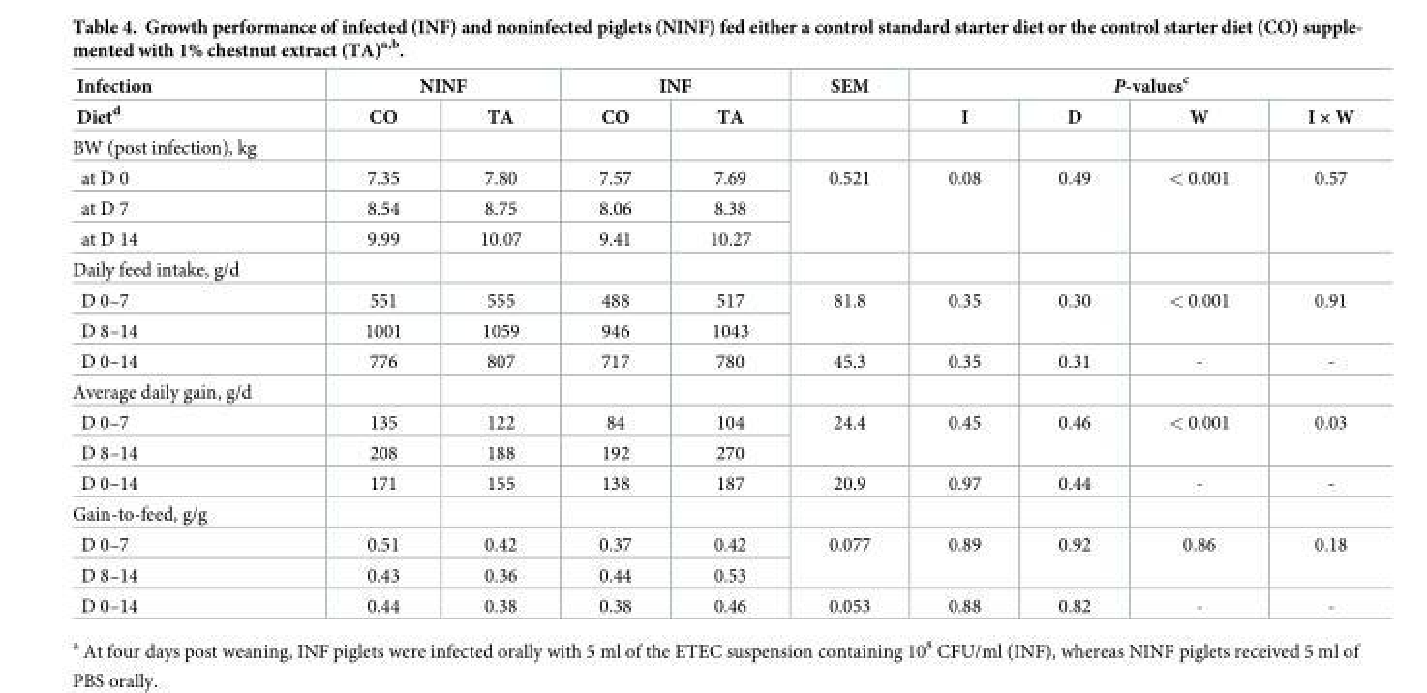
<table><thead><tr><td rowspan="2">Infection Diet<sup>d</sup></td><td colspan="2">NINF</td><td colspan="2">INF</td><td rowspan="2">SEM</td><td colspan="4">P-values<sup>c</sup></td></tr><tr><td>CO</td><td>TA</td><td>CO</td><td>TA</td><td>I</td><td>D</td><td>W</td><td>I × W</td></tr></thead><tbody><tr><td colspan="10">BW (post infection), kg</td></tr><tr><td>at D 0</td><td>7.35</td><td>7.80</td><td>7.57</td><td>7.69</td><td rowspan="3">0.521</td><td rowspan="3">0.08</td><td rowspan="3">0.49</td><td rowspan="3">&lt; 0.001</td><td rowspan="3">0.57</td></tr><tr><td>at D 7</td><td>8.54</td><td>8.75</td><td>8.06</td><td>8.38</td></tr><tr><td>at D 14</td><td>9.99</td><td>10.07</td><td>9.41</td><td>10.27</td></tr><tr><td colspan="10">Daily feed intake, g/d</td></tr><tr><td>D 0–7</td><td>551</td><td>555</td><td>488</td><td>517</td><td rowspan="2">81.8</td><td rowspan="2">0.35</td><td rowspan="2">0.30</td><td rowspan="2">&lt; 0.001</td><td rowspan="2">0.91</td></tr><tr><td>D 8–14</td><td>1001</td><td>1059</td><td>946</td><td>1043</td></tr><tr><td>D 0–14</td><td>776</td><td>807</td><td>717</td><td>780</td><td>45.3</td><td>0.35</td><td>0.31</td><td>-</td><td>-</td></tr><tr><td colspan="10">Average daily gain, g/d</td></tr><tr><td>D 0–7</td><td>135</td><td>122</td><td>84</td><td>104</td><td rowspan="2">24.4</td><td rowspan="2">0.45</td><td rowspan="2">0.46</td><td rowspan="2">&lt; 0.001</td><td rowspan="2">0.03</td></tr><tr><td>D 8–14</td><td>208</td><td>188</td><td>192</td><td>270</td></tr><tr><td>D 0–14</td><td>171</td><td>155</td><td>138</td><td>187</td><td>20.9</td><td>0.97</td><td>0.44</td><td>-</td><td>-</td></tr><tr><td colspan="10">Gain-to-feed, g/g</td></tr><tr><td>D 0–7</td><td>0.51</td><td>0.42</td><td>0.37</td><td>0.42</td><td rowspan="2">0.077</td><td rowspan="2">0.89</td><td rowspan="2">0.92</td><td rowspan="2">0.86</td><td rowspan="2">0.18</td></tr><tr><td>D 8–14</td><td>0.43</td><td>0.36</td><td>0.44</td><td>0.53</td></tr><tr><td>D 0–14</td><td>0.44</td><td>0.38</td><td>0.38</td><td>0.46</td><td>0.053</td><td>0.88</td><td>0.82</td><td>-</td><td>-</td></tr></tbody></table>